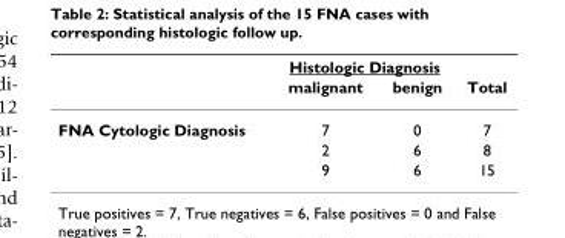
<table><thead><tr><td rowspan="2"></td><td colspan="2">Histologic Diagnosis</td><td rowspan="2">Total</td></tr><tr><td>malignant</td><td>benign</td></tr></thead><tbody><tr><td rowspan="3">FNA Cytologic Diagnosis</td><td>7</td><td>0</td><td>7</td></tr><tr><td>2</td><td>6</td><td>8</td></tr><tr><td>9</td><td>6</td><td>15</td></tr></tbody></table>